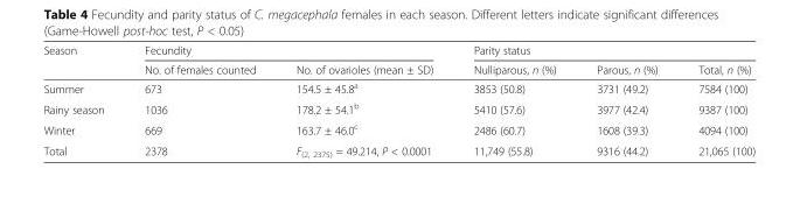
<table><thead><tr><td rowspan="2">Season</td><td colspan="2">Fecundity</td><td colspan="3">Parity status</td></tr><tr><td>No. of females counted</td><td>No. of ovarioles (mean ± SD)</td><td>Nulliparous, n (%)</td><td>Parous, n (%)</td><td>Total, n (%)</td></tr></thead><tbody><tr><td>Summer</td><td>673</td><td>154.5 ± 45.8<sup>a</sup></td><td>3853 (50.8)</td><td>3731 (49.2)</td><td>7584 (100)</td></tr><tr><td>Rainy season</td><td>1036</td><td>178.2 ± 54.1<sup>b</sup></td><td>5410 (57.6)</td><td>3977 (42.4)</td><td>9387 (100)</td></tr><tr><td>Winter</td><td>669</td><td>163.7 ± 46.0<sup>c</sup></td><td>2486 (60.7)</td><td>1608 (39.3)</td><td>4094 (100)</td></tr><tr><td>Total</td><td>2378</td><td>F<sub>(2, 2375)</sub> = 49.214, P &lt; 0.0001</td><td>11,749 (55.8)</td><td>9316 (44.2)</td><td>21,065 (100)</td></tr></tbody></table>